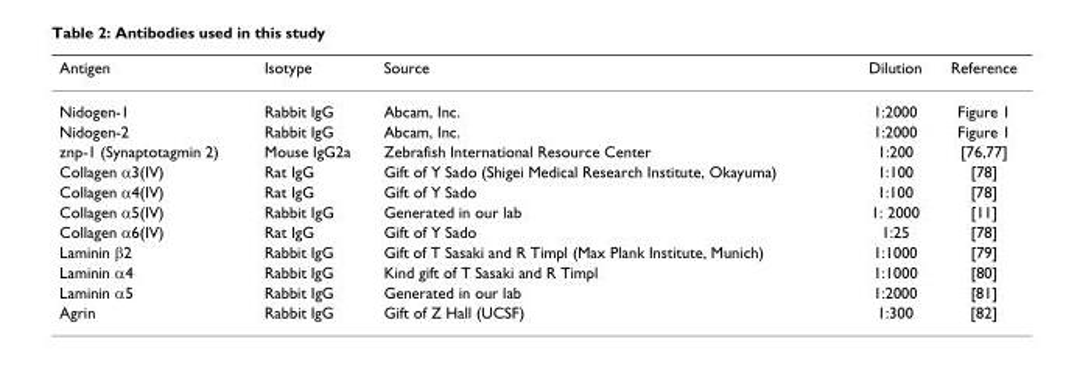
<table><thead><tr><td>Antigen</td><td>Isotype</td><td>Source</td><td>Dilution</td><td>Reference</td></tr></thead><tbody><tr><td>Nidogen-1</td><td>Rabbit IgG</td><td>Abcam, Inc.</td><td>1:2000</td><td>Figure 1</td></tr><tr><td>Nidogen-2</td><td>Rabbit IgG</td><td>Abcam, Inc.</td><td>1:2000</td><td>Figure 1</td></tr><tr><td>znp-1 (Synaptotagmin 2)</td><td>Mouse IgG2a</td><td>Zebrafish International Resource Center</td><td>1:200</td><td>[76,77]</td></tr><tr><td>Collagen α3(IV)</td><td>Rat IgG</td><td>Gift of Y Sado (Shigei Medical Research Institute, Okayuma)</td><td>1:100</td><td>[78]</td></tr><tr><td>Collagen α4(IV)</td><td>Rat IgG</td><td>Gift of Y Sado</td><td>1:100</td><td>[78]</td></tr><tr><td>Collagen α5(IV)</td><td>Rabbit IgG</td><td>Generated in our lab</td><td>1: 2000</td><td>[11]</td></tr><tr><td>Collagen α6(IV)</td><td>Rat IgG</td><td>Gift of Y Sado</td><td>1:25</td><td>[78]</td></tr><tr><td>Laminin β2</td><td>Rabbit IgG</td><td>Gift of T Sasaki and R Timpl (Max Plank Institute, Munich)</td><td>1:1000</td><td>[79]</td></tr><tr><td>Laminin α4</td><td>Rabbit IgG</td><td>Kind gift of T Sasaki and R Timpl</td><td>1:1000</td><td>[80]</td></tr><tr><td>Laminin α5</td><td>Rabbit IgG</td><td>Generated in our lab</td><td>1:2000</td><td>[81]</td></tr><tr><td>Agrin</td><td>Rabbit IgG</td><td>Gift of Z Hall (UCSF)</td><td>1:300</td><td>[82]</td></tr></tbody></table>